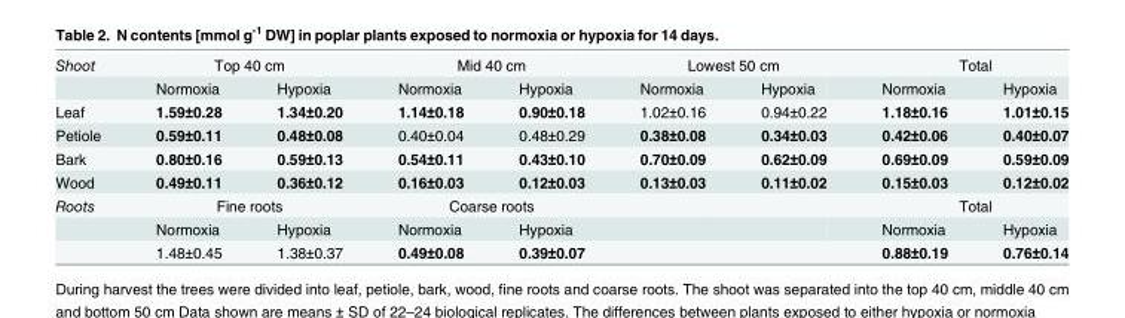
<table><tbody><tr><td rowspan="2">Shoot</td><td colspan="2">Top 40 cm</td><td colspan="2">Mid 40 cm</td><td colspan="2">Lowest 50 cm</td><td colspan="2">Total</td></tr><tr><td>Normoxia</td><td>Hypoxia</td><td>Normoxia</td><td>Hypoxia</td><td>Normoxia</td><td>Hypoxia</td><td>Normoxia</td><td>Hypoxia</td></tr><tr><td>Leaf</td><td>1.59±0.28</td><td>1.34±0.20</td><td>1.14±0.18</td><td>0.90±0.18</td><td>1.02±0.16</td><td>0.94±0.22</td><td>1.18±0.16</td><td>1.01±0.15</td></tr><tr><td>Petiole</td><td>0.59±0.11</td><td>0.48±0.08</td><td>0.40±0.04</td><td>0.48±0.29</td><td>0.38±0.08</td><td>0.34±0.03</td><td>0.42±0.06</td><td>0.40±0.07</td></tr><tr><td>Bark</td><td>0.80±0.16</td><td>0.59±0.13</td><td>0.54±0.11</td><td>0.43±0.10</td><td>0.70±0.09</td><td>0.62±0.09</td><td>0.69±0.09</td><td>0.59±0.09</td></tr><tr><td>Wood</td><td>0.49±0.11</td><td>0.36±0.12</td><td>0.16±0.03</td><td>0.12±0.03</td><td>0.13±0.03</td><td>0.11±0.02</td><td>0.15±0.03</td><td>0.12±0.02</td></tr><tr><td rowspan="3">Roots</td><td colspan="2">Fine roots</td><td colspan="2">Coarse roots</td><td></td><td></td><td colspan="2">Total</td></tr><tr><td>Normoxia</td><td>Hypoxia</td><td>Normoxia</td><td>Hypoxia</td><td></td><td></td><td>Normoxia</td><td>Hypoxia</td></tr><tr><td>1.48±0.45</td><td>1.38±0.37</td><td>0.49±0.08</td><td>0.39±0.07</td><td></td><td></td><td>0.88±0.19</td><td>0.76±0.14</td></tr></tbody></table>